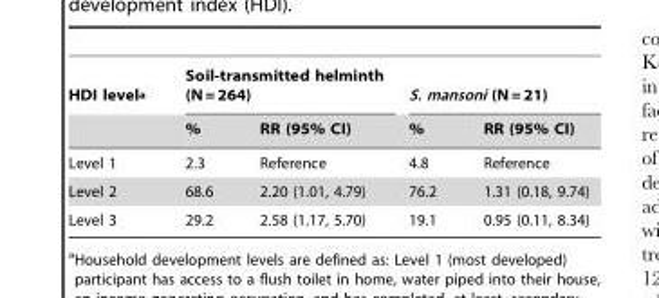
<table><thead><tr><td rowspan="2">HDI level<sup>a</sup></td><td colspan="2">Soil-transmitted helminth (N = 264)</td><td colspan="2">S. mansoni (N = 21)</td></tr><tr><td>%</td><td>RR (95% CI)</td><td>%</td><td>RR (95% CI)</td></tr></thead><tbody><tr><td>Level 1</td><td>2.3</td><td>Reference</td><td>4.8</td><td>Reference</td></tr><tr><td>Level 2</td><td>68.6</td><td>2.20 (1.01, 4.79)</td><td>76.2</td><td>1.31 (0.18, 9.74)</td></tr><tr><td>Level 3</td><td>29.2</td><td>2.58 (1.17, 5.70)</td><td>19.1</td><td>0.95 (0.11, 8.34)</td></tr></tbody></table>